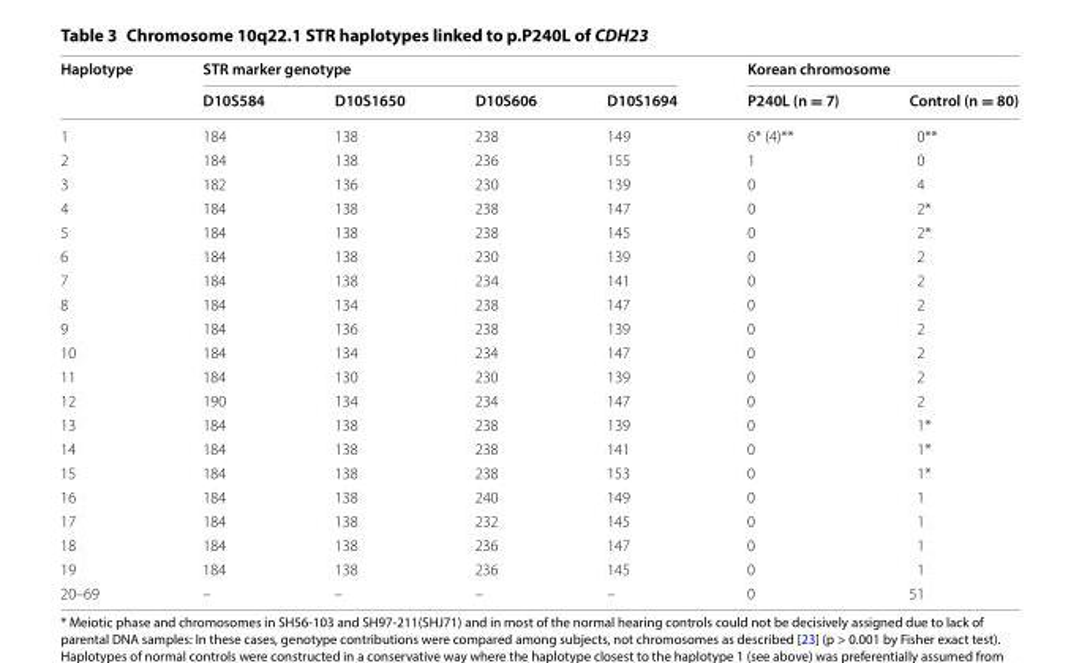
<table><thead><tr><td rowspan="2">Haplotype</td><td colspan="4">STR marker genotype</td><td colspan="2">Korean chromosome</td></tr><tr><td>D10S584</td><td>D10S1650</td><td>D10S606</td><td>D10S1694</td><td>P240L (n = 7)</td><td>Control (n = 80)</td></tr></thead><tbody><tr><td>1</td><td>184</td><td>138</td><td>238</td><td>149</td><td>6* (4)**</td><td>0**</td></tr><tr><td>2</td><td>184</td><td>138</td><td>236</td><td>155</td><td>1</td><td>0</td></tr><tr><td>3</td><td>182</td><td>136</td><td>230</td><td>139</td><td>0</td><td>4</td></tr><tr><td>4</td><td>184</td><td>138</td><td>238</td><td>147</td><td>0</td><td>2*</td></tr><tr><td>5</td><td>184</td><td>138</td><td>238</td><td>145</td><td>0</td><td>2*</td></tr><tr><td>6</td><td>184</td><td>138</td><td>230</td><td>139</td><td>0</td><td>2</td></tr><tr><td>7</td><td>184</td><td>138</td><td>234</td><td>141</td><td>0</td><td>2</td></tr><tr><td>8</td><td>184</td><td>134</td><td>238</td><td>147</td><td>0</td><td>2</td></tr><tr><td>9</td><td>184</td><td>136</td><td>238</td><td>139</td><td>0</td><td>2</td></tr><tr><td>10</td><td>184</td><td>134</td><td>234</td><td>147</td><td>0</td><td>2</td></tr><tr><td>11</td><td>184</td><td>130</td><td>230</td><td>139</td><td>0</td><td>2</td></tr><tr><td>12</td><td>190</td><td>134</td><td>234</td><td>147</td><td>0</td><td>2</td></tr><tr><td>13</td><td>184</td><td>138</td><td>238</td><td>139</td><td>0</td><td>1*</td></tr><tr><td>14</td><td>184</td><td>138</td><td>238</td><td>141</td><td>0</td><td>1*</td></tr><tr><td>15</td><td>184</td><td>138</td><td>238</td><td>153</td><td>0</td><td>1*</td></tr><tr><td>16</td><td>184</td><td>138</td><td>240</td><td>149</td><td>0</td><td>1</td></tr><tr><td>17</td><td>184</td><td>138</td><td>232</td><td>145</td><td>0</td><td>1</td></tr><tr><td>18</td><td>184</td><td>138</td><td>236</td><td>147</td><td>0</td><td>1</td></tr><tr><td>19</td><td>184</td><td>138</td><td>236</td><td>145</td><td>0</td><td>1</td></tr><tr><td>20–69</td><td>–</td><td>–</td><td>–</td><td>–</td><td>0</td><td>51</td></tr></tbody></table>